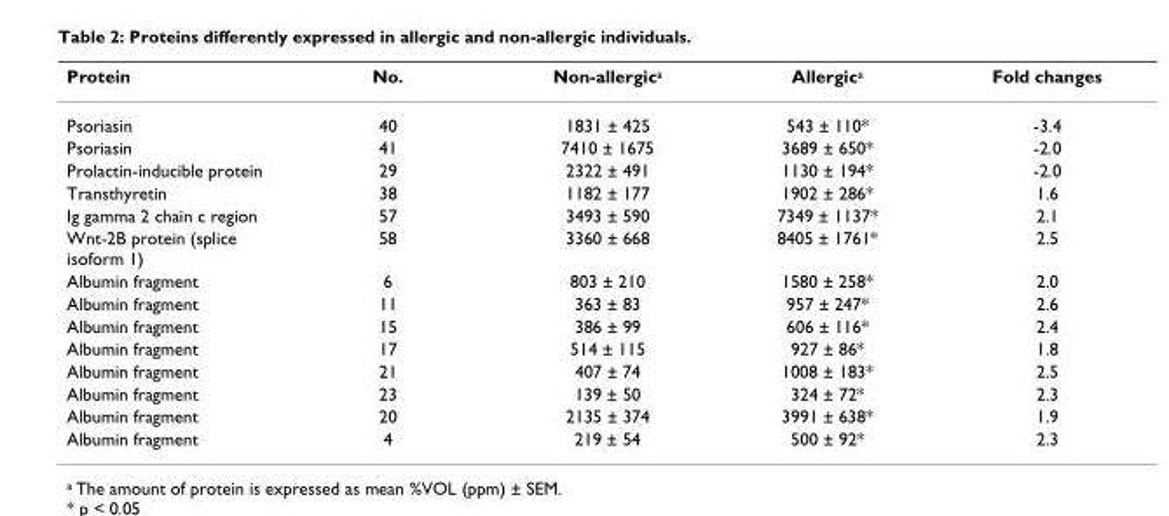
<table><thead><tr><td>Protein</td><td>No.</td><td>Non-allergic<sup>a</sup></td><td>Allergic<sup>a</sup></td><td>Fold changes</td></tr></thead><tbody><tr><td>Psoriasin</td><td>40</td><td>1831 ± 425</td><td>543 ± 110*</td><td>-3.4</td></tr><tr><td>Psoriasin</td><td>41</td><td>7410 ± 1675</td><td>3689 ± 650*</td><td>-2.0</td></tr><tr><td>Prolactin-inducible protein</td><td>29</td><td>2322 ± 491</td><td>1130 ± 194*</td><td>-2.0</td></tr><tr><td>Transthyretin</td><td>38</td><td>1182 ± 177</td><td>1902 ± 286*</td><td>1.6</td></tr><tr><td>Ig gamma 2 chain c region</td><td>57</td><td>3493 ± 590</td><td>7349 ± 1137*</td><td>2.1</td></tr><tr><td>Wnt-2B protein (splice isoform 1)</td><td>58</td><td>3360 ± 668</td><td>8405 ± 1761*</td><td>2.5</td></tr><tr><td>Albumin fragment</td><td>6</td><td>803 ± 210</td><td>1580 ± 258*</td><td>2.0</td></tr><tr><td>Albumin fragment</td><td>11</td><td>363 ± 83</td><td>957 ± 247*</td><td>2.6</td></tr><tr><td>Albumin fragment</td><td>15</td><td>386 ± 99</td><td>606 ± 116*</td><td>2.4</td></tr><tr><td>Albumin fragment</td><td>17</td><td>514 ± 115</td><td>927 ± 86*</td><td>1.8</td></tr><tr><td>Albumin fragment</td><td>21</td><td>407 ± 74</td><td>1008 ± 183*</td><td>2.5</td></tr><tr><td>Albumin fragment</td><td>23</td><td>139 ± 50</td><td>324 ± 72*</td><td>2.3</td></tr><tr><td>Albumin fragment</td><td>20</td><td>2135 ± 374</td><td>3991 ± 638*</td><td>1.9</td></tr><tr><td>Albumin fragment</td><td>4</td><td>219 ± 54</td><td>500 ± 92*</td><td>2.3</td></tr></tbody></table>